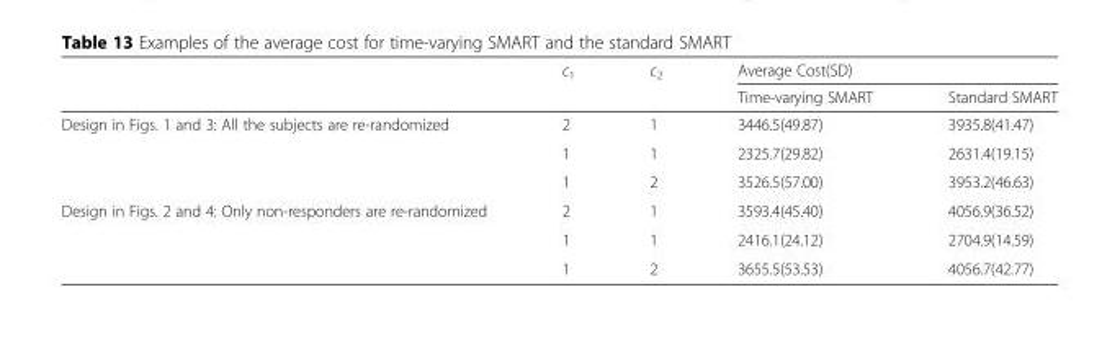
<table><thead><tr><td rowspan="2"></td><td rowspan="2">c<sub>1</sub></td><td rowspan="2">c<sub>2</sub></td><td colspan="2">Average Cost(SD)</td></tr><tr><td>Time-varying SMART</td><td>Standard SMART</td></tr></thead><tbody><tr><td rowspan="3">Design in Figs. 1 and 3: All the subjects are re-randomized</td><td>2</td><td>1</td><td>3446.5(49.87)</td><td>3935.8(41.47)</td></tr><tr><td>1</td><td>1</td><td>2325.7(29.82)</td><td>2631.4(19.15)</td></tr><tr><td>1</td><td>2</td><td>3526.5(57.00)</td><td>3953.2(46.63)</td></tr><tr><td rowspan="3">Design in Figs. 2 and 4: Only non-responders are re-randomized</td><td>2</td><td>1</td><td>3593.4(45.40)</td><td>4056.9(36.52)</td></tr><tr><td>1</td><td>1</td><td>2416.1(24.12)</td><td>2704.9(14.59)</td></tr><tr><td>1</td><td>2</td><td>3655.5(53.53)</td><td>4056.7(42.77)</td></tr></tbody></table>